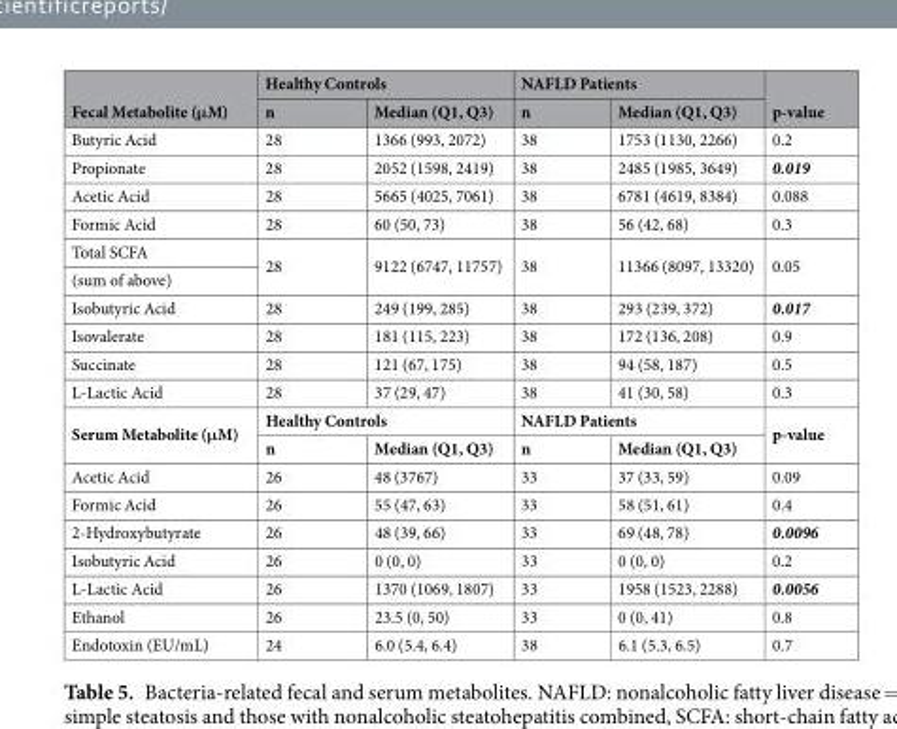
<table><thead><tr><td rowspan="2">Fecal Metabolite (μM)</td><td colspan="2">Healthy Controls</td><td colspan="2">NAFLD Patients</td><td rowspan="2">p-value</td></tr><tr><td>n</td><td>Median (Q1, Q3)</td><td>n</td><td>Median (Q1, Q3)</td></tr></thead><tbody><tr><td>Butyric Acid</td><td>28</td><td>1366 (993, 2072)</td><td>38</td><td>1753 (1130, 2266)</td><td>0.2</td></tr><tr><td>Propionate</td><td>28</td><td>2052 (1598, 2419)</td><td>38</td><td>2485 (1985, 3649)</td><td>0.019</td></tr><tr><td>Acetic Acid</td><td>28</td><td>5665 (4025, 7061)</td><td>38</td><td>6781 (4619, 8384)</td><td>0.088</td></tr><tr><td>Formic Acid</td><td>28</td><td>60 (50, 73)</td><td>38</td><td>56 (42, 68)</td><td>0.3</td></tr><tr><td>Total SCFA</td><td rowspan="2">28</td><td rowspan="2">9122 (6747, 11757)</td><td rowspan="2">38</td><td rowspan="2">11366 (8097, 13320)</td><td rowspan="2">0.05</td></tr><tr><td>(sum of above)</td></tr><tr><td>Isobutyric Acid</td><td>28</td><td>249 (199, 285)</td><td>38</td><td>293 (239, 372)</td><td>0.017</td></tr><tr><td>Isovalerate</td><td>28</td><td>181 (115, 223)</td><td>38</td><td>172 (136, 208)</td><td>0.9</td></tr><tr><td>Succinate</td><td>28</td><td>121 (67, 175)</td><td>38</td><td>94 (58, 187)</td><td>0.5</td></tr><tr><td>L-Lactic Acid</td><td>28</td><td>37 (29, 47)</td><td>38</td><td>41 (30, 58)</td><td>0.3</td></tr><tr><td rowspan="2">Serum Metabolite (μM)</td><td colspan="2">Healthy Controls</td><td colspan="2">NAFLD Patients</td><td rowspan="2">p-value</td></tr><tr><td>n</td><td>Median (Q1, Q3)</td><td>n</td><td>Median (Q1, Q3)</td></tr><tr><td>Acetic Acid</td><td>26</td><td>48 (3767)</td><td>33</td><td>37 (33, 59)</td><td>0.09</td></tr><tr><td>Formic Acid</td><td>26</td><td>55 (47, 63)</td><td>33</td><td>58 (51, 61)</td><td>0.4</td></tr><tr><td>2-Hydroxybutyrate</td><td>26</td><td>48 (39, 66)</td><td>33</td><td>69 (48, 78)</td><td>0.0096</td></tr><tr><td>Isobutyric Acid</td><td>26</td><td>0 (0, 0)</td><td>33</td><td>0 (0, 0)</td><td>0.2</td></tr><tr><td>L-Lactic Acid</td><td>26</td><td>1370 (1069, 1807)</td><td>33</td><td>1958 (1523, 2288)</td><td>0.0056</td></tr><tr><td>Ethanol</td><td>26</td><td>23.5 (0, 50)</td><td>33</td><td>0 (0, 41)</td><td>0.8</td></tr><tr><td>Endotoxin (EU/mL)</td><td>24</td><td>6.0 (5.4, 6.4)</td><td>38</td><td>6.1 (5.3, 6.5)</td><td>0.7</td></tr></tbody></table>